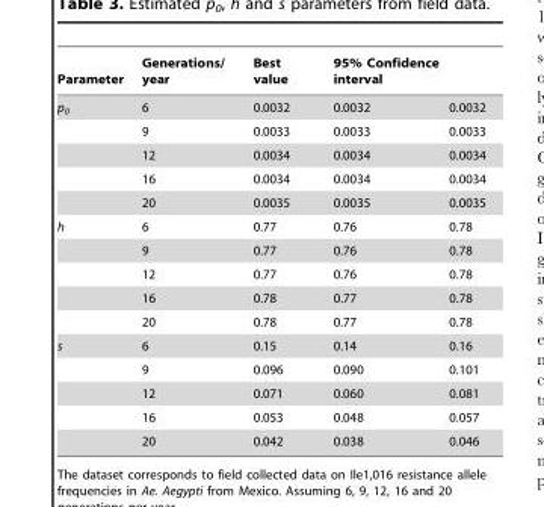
<table><thead><tr><td rowspan="2">Parameter p<sub>0</sub></td><td rowspan="2">Generations/ year 6</td><td rowspan="2">Best value 0.0032</td><td colspan="2">95% Confidence interval</td></tr><tr><td>0.0032</td><td>0.0032</td></tr></thead><tbody><tr><td></td><td>9</td><td>0.0033</td><td>0.0033</td><td>0.0033</td></tr><tr><td></td><td>12</td><td>0.0034</td><td>0.0034</td><td>0.0034</td></tr><tr><td></td><td>16</td><td>0.0034</td><td>0.0034</td><td>0.0034</td></tr><tr><td></td><td>20</td><td>0.0035</td><td>0.0035</td><td>0.0035</td></tr><tr><td rowspan="5">h</td><td>6</td><td>0.77</td><td>0.76</td><td>0.78</td></tr><tr><td>9</td><td>0.77</td><td>0.76</td><td>0.78</td></tr><tr><td>12</td><td>0.77</td><td>0.76</td><td>0.78</td></tr><tr><td>16</td><td>0.78</td><td>0.77</td><td>0.78</td></tr><tr><td>20</td><td>0.78</td><td>0.77</td><td>0.78</td></tr><tr><td rowspan="5">s</td><td>6</td><td>0.15</td><td>0.14</td><td>0.16</td></tr><tr><td>9</td><td>0.096</td><td>0.090</td><td>0.101</td></tr><tr><td>12</td><td>0.071</td><td>0.060</td><td>0.081</td></tr><tr><td>16</td><td>0.053</td><td>0.048</td><td>0.057</td></tr><tr><td>20</td><td>0.042</td><td>0.038</td><td>0.046</td></tr></tbody></table>